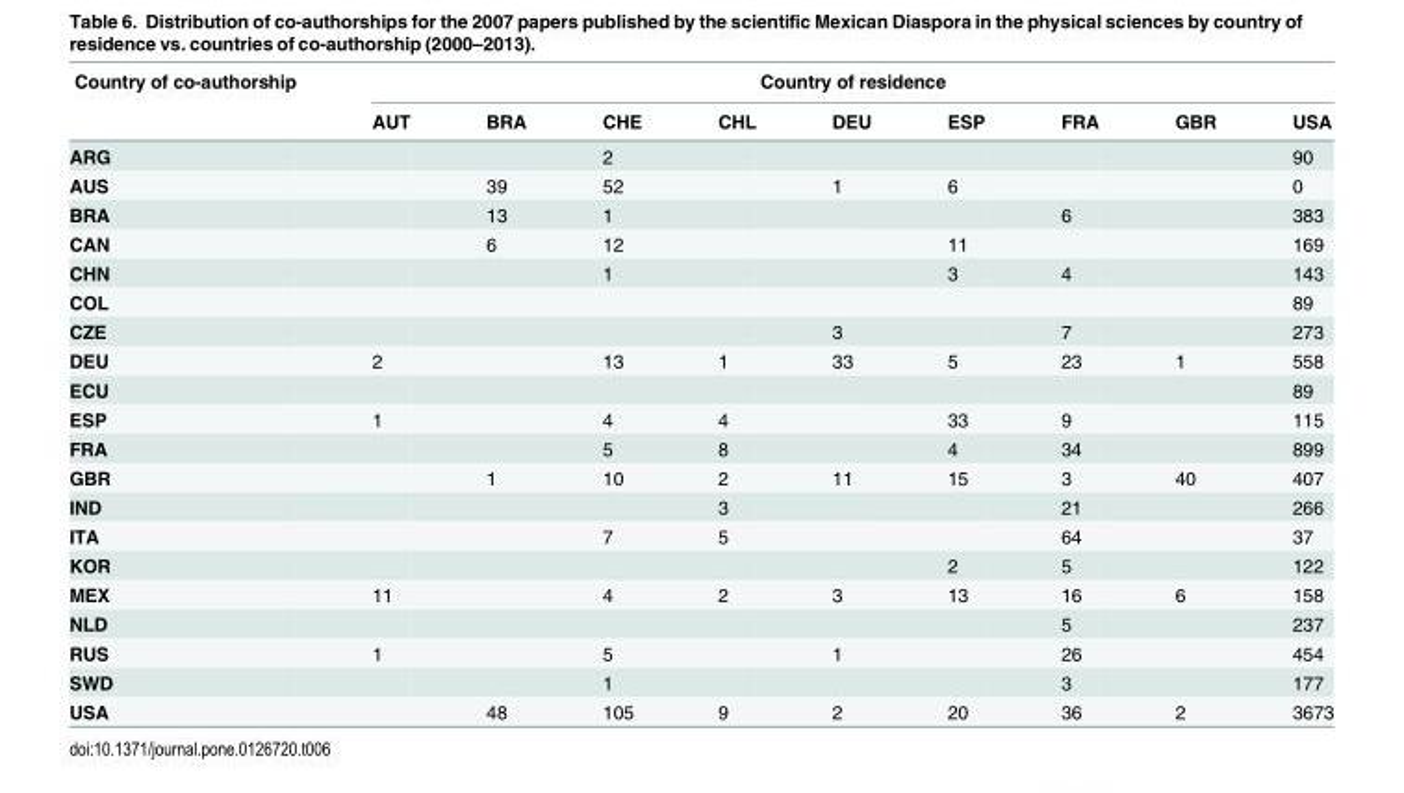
<table><thead><tr><td rowspan="2">Country of co-authorship</td><td colspan="9">Country of residence</td></tr><tr><td>AUT</td><td>BRA</td><td>CHE</td><td>CHL</td><td>DEU</td><td>ESP</td><td>FRA</td><td>GBR</td><td>USA</td></tr></thead><tbody><tr><td>ARG</td><td></td><td></td><td>2</td><td></td><td></td><td></td><td></td><td></td><td>90</td></tr><tr><td>AUS</td><td></td><td>39</td><td>52</td><td></td><td>1</td><td>6</td><td></td><td></td><td>0</td></tr><tr><td>BRA</td><td></td><td>13</td><td>1</td><td></td><td></td><td></td><td>6</td><td></td><td>383</td></tr><tr><td>CAN</td><td></td><td>6</td><td>12</td><td></td><td></td><td>11</td><td></td><td></td><td>169</td></tr><tr><td>CHN</td><td></td><td></td><td>1</td><td></td><td></td><td>3</td><td>4</td><td></td><td>143</td></tr><tr><td>COL</td><td></td><td></td><td></td><td></td><td></td><td></td><td></td><td></td><td>89</td></tr><tr><td>CZE</td><td></td><td></td><td></td><td></td><td>3</td><td></td><td>7</td><td></td><td>273</td></tr><tr><td>DEU</td><td>2</td><td></td><td>13</td><td>1</td><td>33</td><td>5</td><td>23</td><td>1</td><td>558</td></tr><tr><td>ECU</td><td></td><td></td><td></td><td></td><td></td><td></td><td></td><td></td><td>89</td></tr><tr><td>ESP</td><td>1</td><td></td><td>4</td><td>4</td><td></td><td>33</td><td>9</td><td></td><td>115</td></tr><tr><td>FRA</td><td></td><td></td><td>5</td><td>8</td><td></td><td>4</td><td>34</td><td></td><td>899</td></tr><tr><td>GBR</td><td></td><td>1</td><td>10</td><td>2</td><td>11</td><td>15</td><td>3</td><td>40</td><td>407</td></tr><tr><td>IND</td><td></td><td></td><td></td><td>3</td><td></td><td></td><td>21</td><td></td><td>266</td></tr><tr><td>ITA</td><td></td><td></td><td>7</td><td>5</td><td></td><td></td><td>64</td><td></td><td>37</td></tr><tr><td>KOR</td><td></td><td></td><td></td><td></td><td></td><td>2</td><td>5</td><td></td><td>122</td></tr><tr><td>MEX</td><td>11</td><td></td><td>4</td><td>2</td><td>3</td><td>13</td><td>16</td><td>6</td><td>158</td></tr><tr><td>NLD</td><td></td><td></td><td></td><td></td><td></td><td></td><td>5</td><td></td><td>237</td></tr><tr><td>RUS</td><td>1</td><td></td><td>5</td><td></td><td>1</td><td></td><td>26</td><td></td><td>454</td></tr><tr><td>SWD</td><td></td><td></td><td>1</td><td></td><td></td><td></td><td>3</td><td></td><td>177</td></tr><tr><td>USA</td><td></td><td>48</td><td>105</td><td>9</td><td>2</td><td>20</td><td>36</td><td>2</td><td>3673</td></tr></tbody></table>